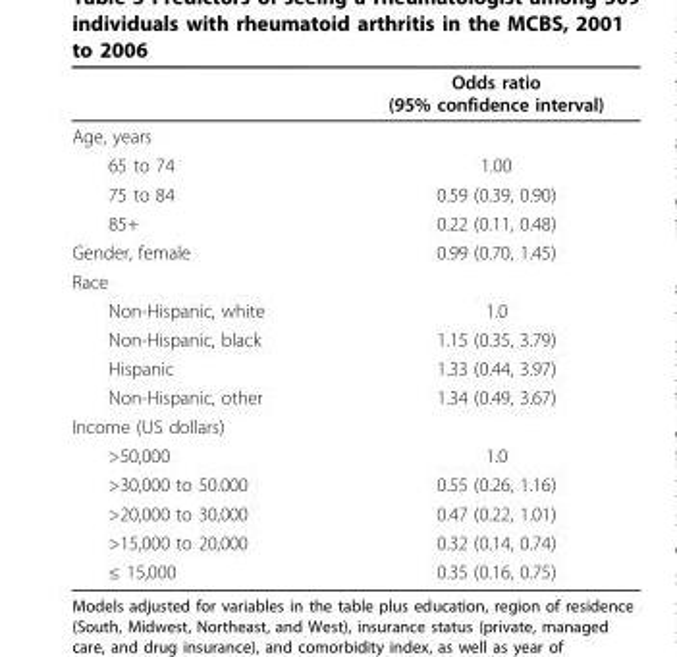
<table><thead><tr><td></td><td>Odds ratio (95% confidence interval)</td></tr></thead><tbody><tr><td colspan="2">Age, years</td></tr><tr><td>65 to 74</td><td>1.00</td></tr><tr><td>75 to 84</td><td>0.59 (0.39, 0.90)</td></tr><tr><td>85+</td><td>0.22 (0.11, 0.48)</td></tr><tr><td>Gender, female</td><td>0.99 (0.70, 1.45)</td></tr><tr><td colspan="2">Race</td></tr><tr><td>Non-Hispanic, white</td><td>1.0</td></tr><tr><td>Non-Hispanic, black</td><td>1.15 (0.35, 3.79)</td></tr><tr><td>Hispanic</td><td>1.33 (0.44, 3.97)</td></tr><tr><td>Non-Hispanic, other</td><td>1.34 (0.49, 3.67)</td></tr><tr><td colspan="2">Income (US dollars)</td></tr><tr><td>&gt;50,000</td><td>1.0</td></tr><tr><td>&gt;30,000 to 50.000</td><td>0.55 (0.26, 1.16)</td></tr><tr><td>&gt;20,000 to 30,000</td><td>0.47 (0.22, 1.01)</td></tr><tr><td>&gt;15,000 to 20,000</td><td>0.32 (0.14, 0.74)</td></tr><tr><td>≤ 15,000</td><td>0.35 (0.16, 0.75)</td></tr></tbody></table>